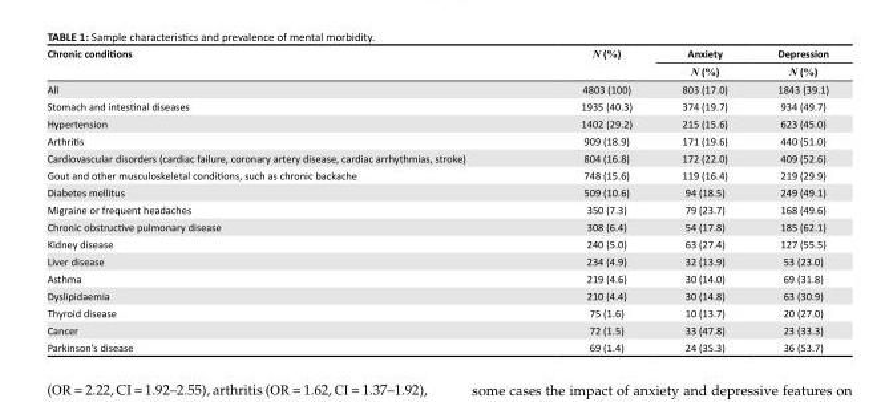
<table><thead><tr><td rowspan="2">Chronic conditions</td><td rowspan="2">N (%)</td><td rowspan="2">Anxiety N (%)</td><td rowspan="2">Depression N (%)</td></tr><tr></tr></thead><tbody><tr><td>All</td><td>4803 (100)</td><td>803 (17.0)</td><td>1843 (39.1)</td></tr><tr><td>Stomach and intestinal diseases</td><td>1935 (40.3)</td><td>374 (19.7)</td><td>934 (49.7)</td></tr><tr><td>Hypertension</td><td>1402 (29.2)</td><td>215 (15.6)</td><td>623 (45.0)</td></tr><tr><td>Arthritis</td><td>909 (18.9)</td><td>171 (19.6)</td><td>440 (51.0)</td></tr><tr><td>Cardiovascular disorders (cardiac failure, coronary artery disease, cardiac arrhythmias, stroke)</td><td>804 (16.8)</td><td>172 (22.0)</td><td>409 (52.6)</td></tr><tr><td>Gout and other musculoskeletal conditions, such as chronic backache</td><td>748 (15.6)</td><td>119 (16.4)</td><td>219 (29.9)</td></tr><tr><td>Diabetes mellitus</td><td>509 (10.6)</td><td>94 (18.5)</td><td>249 (49.1)</td></tr><tr><td>Migraine or frequent headaches</td><td>350 (7.3)</td><td>79 (23.7)</td><td>168 (49.6)</td></tr><tr><td>Chronic obstructive pulmonary disease</td><td>308 (6.4)</td><td>54 (17.8)</td><td>185 (62.1)</td></tr><tr><td>Kidney disease</td><td>240 (5.0)</td><td>63 (27.4)</td><td>127 (55.5)</td></tr><tr><td>Liver disease</td><td>234 (4.9)</td><td>32 (13.9)</td><td>53 (23.0)</td></tr><tr><td>Asthma</td><td>219 (4.6)</td><td>30 (14.0)</td><td>69 (31.8)</td></tr><tr><td>Dyslipidaemia</td><td>210 (4.4)</td><td>30 (14.8)</td><td>63 (30.9)</td></tr><tr><td>Thyroid disease</td><td>75 (1.6)</td><td>10 (13.7)</td><td>20 (27.0)</td></tr><tr><td>Cancer</td><td>72 (1.5)</td><td>33 (47.8)</td><td>23 (33.3)</td></tr><tr><td>Parkinson’s disease</td><td>69 (1.4)</td><td>24 (35.3)</td><td>36 (53.7)</td></tr></tbody></table>